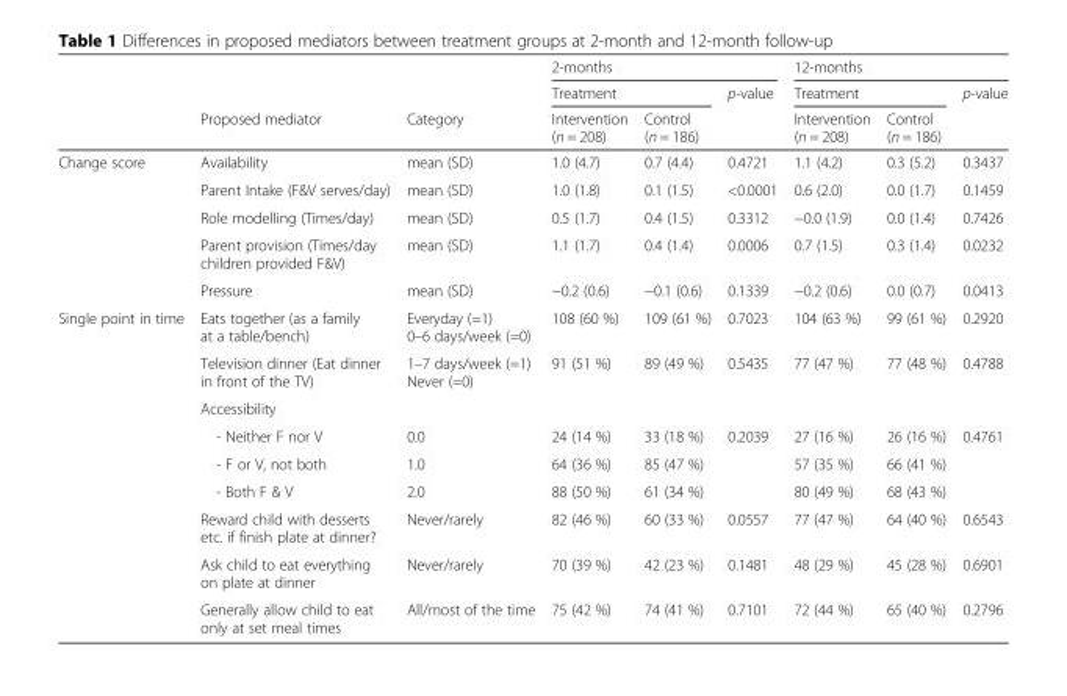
<table><thead><tr><td rowspan="3"></td><td rowspan="3">Proposed mediator</td><td rowspan="3">Category</td><td colspan="3">2-months</td><td colspan="3">12-months</td></tr><tr><td colspan="2">Treatment</td><td rowspan="2">p-value</td><td colspan="2">Treatment</td><td rowspan="2">p-value</td></tr><tr><td>Intervention (n = 208)</td><td>Control (n = 186)</td><td>Intervention (n = 208)</td><td>Control (n = 186)</td></tr></thead><tbody><tr><td rowspan="5">Change score</td><td>Availability</td><td>mean (SD)</td><td>1.0 (4.7)</td><td>0.7 (4.4)</td><td>0.4721</td><td>1.1 (4.2)</td><td>0.3 (5.2)</td><td>0.3437</td></tr><tr><td>Parent Intake (F&amp;V serves/day)</td><td>mean (SD)</td><td>1.0 (1.8)</td><td>0.1 (1.5)</td><td>&lt;0.0001</td><td>0.6 (2.0)</td><td>0.0 (1.7)</td><td>0.1459</td></tr><tr><td>Role modelling (Times/day)</td><td>mean (SD)</td><td>0.5 (1.7)</td><td>0.4 (1.5)</td><td>0.3312</td><td>−0.0 (1.9)</td><td>0.0 (1.4)</td><td>0.7426</td></tr><tr><td>Parent provision (Times/day children provided F&amp;V)</td><td>mean (SD)</td><td>1.1 (1.7)</td><td>0.4 (1.4)</td><td>0.0006</td><td>0.7 (1.5)</td><td>0.3 (1.4)</td><td>0.0232</td></tr><tr><td>Pressure</td><td>mean (SD)</td><td>−0.2 (0.6)</td><td>−0.1 (0.6)</td><td>0.1339</td><td>−0.2 (0.6)</td><td>0.0 (0.7)</td><td>0.0413</td></tr><tr><td rowspan="9">Single point in time</td><td>Eats together (as a family at a table/bench)</td><td>Everyday (=1) 0–6 days/week (=0)</td><td>108 (60 %)</td><td>109 (61 %)</td><td>0.7023</td><td>104 (63 %)</td><td>99 (61 %)</td><td>0.2920</td></tr><tr><td>Television dinner (Eat dinner in front of the TV)</td><td>1–7 days/week (=1) Never (=0)</td><td>91 (51 %)</td><td>89 (49 %)</td><td>0.5435</td><td>77 (47 %)</td><td>77 (48 %)</td><td>0.4788</td></tr><tr><td colspan="8">Accessibility</td></tr><tr><td>- Neither F nor V</td><td>0.0</td><td>24 (14 %)</td><td>33 (18 %)</td><td>0.2039</td><td>27 (16 %)</td><td>26 (16 %)</td><td>0.4761</td></tr><tr><td>- F or V, not both</td><td>1.0</td><td>64 (36 %)</td><td>85 (47 %)</td><td></td><td>57 (35 %)</td><td>66 (41 %)</td><td></td></tr><tr><td>- Both F &amp; V</td><td>2.0</td><td>88 (50 %)</td><td>61 (34 %)</td><td></td><td>80 (49 %)</td><td>68 (43 %)</td><td></td></tr><tr><td>Reward child with desserts etc. if finish plate at dinner?</td><td>Never/rarely</td><td>82 (46 %)</td><td>60 (33 %)</td><td>0.0557</td><td>77 (47 %)</td><td>64 (40 %)</td><td>0.6543</td></tr><tr><td>Ask child to eat everything on plate at dinner</td><td>Never/rarely</td><td>70 (39 %)</td><td>42 (23 %)</td><td>0.1481</td><td>48 (29 %)</td><td>45 (28 %)</td><td>0.6901</td></tr><tr><td>Generally allow child to eat only at set meal times</td><td>All/most of the time</td><td>75 (42 %)</td><td>74 (41 %)</td><td>0.7101</td><td>72 (44 %)</td><td>65 (40 %)</td><td>0.2796</td></tr></tbody></table>